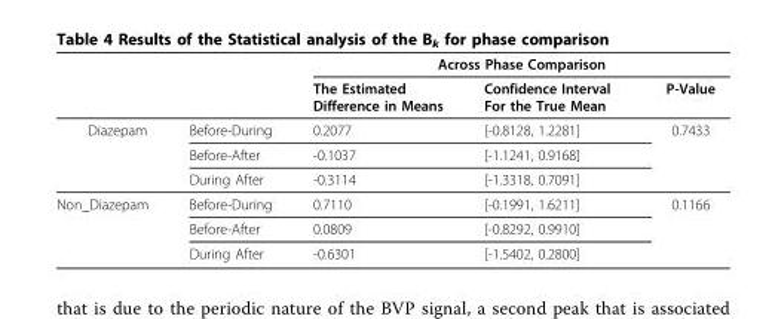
<table><thead><tr><td rowspan="2"></td><td rowspan="2"></td><td colspan="3">Across Phase Comparison</td></tr><tr><td>The Estimated Difference in Means</td><td>Confidence Interval For the True Mean</td><td>P-Value</td></tr></thead><tbody><tr><td rowspan="3">Diazepam</td><td>Before-During</td><td>0.2077</td><td>[-0.8128, 1.2281]</td><td>0.7433</td></tr><tr><td>Before-After</td><td>-0.1037</td><td>[-1.1241, 0.9168]</td><td></td></tr><tr><td>During After</td><td>-0.3114</td><td>[-1.3318, 0.7091]</td><td></td></tr><tr><td rowspan="3">Non_Diazepam</td><td>Before-During</td><td>0.7110</td><td>[-0.1991, 1.6211]</td><td>0.1166</td></tr><tr><td>Before-After</td><td>0.0809</td><td>[-0.8292, 0.9910]</td><td></td></tr><tr><td>During After</td><td>-0.6301</td><td>[-1.5402, 0.2800]</td><td></td></tr></tbody></table>